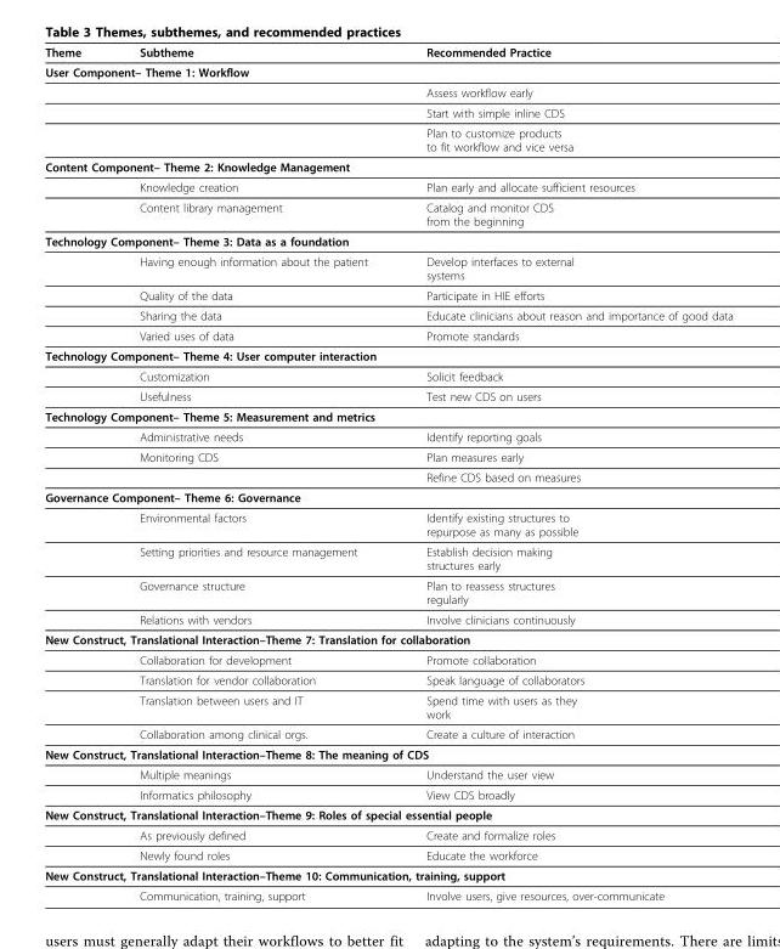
<table><thead><tr><td>Theme</td><td>Subtheme</td><td>Recommended Practice</td></tr></thead><tbody><tr><td colspan="3">User Component– Theme 1: Workflow</td></tr><tr><td></td><td></td><td>Assess workflow early</td></tr><tr><td></td><td></td><td>Start with simple inline CDS</td></tr><tr><td></td><td></td><td>Plan to customize products to fit workflow and vice versa</td></tr><tr><td colspan="3">Content Component– Theme 2: Knowledge Management</td></tr><tr><td></td><td>Knowledge creation</td><td>Plan early and allocate sufficient resources</td></tr><tr><td></td><td>Content library management</td><td>Catalog and monitor CDS from the beginning</td></tr><tr><td colspan="3">Technology Component– Theme 3: Data as a foundation</td></tr><tr><td></td><td>Having enough information about the patient</td><td>Develop interfaces to external systems</td></tr><tr><td></td><td>Quality of the data</td><td>Participate in HIE efforts</td></tr><tr><td></td><td>Sharing the data</td><td>Educate clinicians about reason and importance of good data</td></tr><tr><td></td><td>Varied uses of data</td><td>Promote standards</td></tr><tr><td colspan="3">Technology Component– Theme 4: User computer interaction</td></tr><tr><td></td><td>Customization</td><td>Solicit feedback</td></tr><tr><td></td><td>Usefulness</td><td>Test new CDS on users</td></tr><tr><td colspan="3">Technology Component– Theme 5: Measurement and metrics</td></tr><tr><td></td><td>Administrative needs</td><td>Identify reporting goals</td></tr><tr><td></td><td>Monitoring CDS</td><td>Plan measures early</td></tr><tr><td></td><td></td><td>Refine CDS based on measures</td></tr><tr><td colspan="3">Governance Component– Theme 6: Governance</td></tr><tr><td></td><td>Environmental factors</td><td>Identify existing structures to repurpose as many as possible</td></tr><tr><td></td><td>Setting priorities and resource management</td><td>Establish decision making structures early</td></tr><tr><td></td><td>Governance structure</td><td>Plan to reassess structures regularly</td></tr><tr><td></td><td>Relations with vendors</td><td>Involve clinicians continuously</td></tr><tr><td colspan="3">New Construct, Translational Interaction–Theme 7: Translation for collaboration</td></tr><tr><td></td><td>Collaboration for development</td><td>Promote collaboration</td></tr><tr><td></td><td>Translation for vendor collaboration</td><td>Speak language of collaborators</td></tr><tr><td></td><td>Translation between users and IT</td><td>Spend time with users as they work</td></tr><tr><td></td><td>Collaboration among clinical orgs.</td><td>Create a culture of interaction</td></tr><tr><td colspan="3">New Construct, Translational Interaction–Theme 8: The meaning of CDS</td></tr><tr><td></td><td>Multiple meanings</td><td>Understand the user view</td></tr><tr><td></td><td>Informatics philosophy</td><td>View CDS broadly</td></tr><tr><td colspan="3">New Construct, Translational Interaction–Theme 9: Roles of special essential people</td></tr><tr><td></td><td>As previously defined</td><td>Create and formalize roles</td></tr><tr><td></td><td>Newly found roles</td><td>Educate the workforce</td></tr><tr><td colspan="3">New Construct, Translational Interaction–Theme 10: Communication, training, support</td></tr><tr><td></td><td>Communication, training, support</td><td>Involve users, give resources, over-communicate</td></tr></tbody></table>